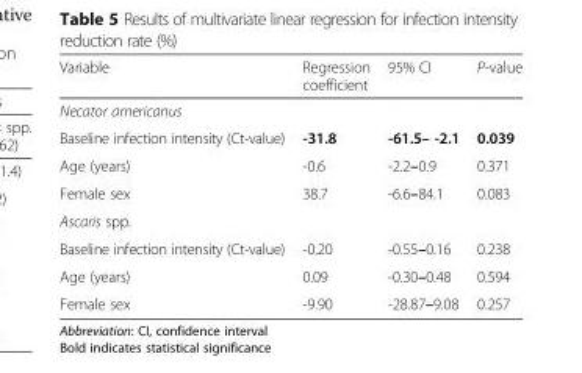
<table><thead><tr><td>Variable</td><td>Regression coefficient</td><td>95% CI</td><td>P-value</td></tr></thead><tbody><tr><td colspan="4">Necator americanus</td></tr><tr><td>Baseline infection intensity (Ct-value)</td><td>-31.8</td><td>-61.5– -2.1</td><td>0.039</td></tr><tr><td>Age (years)</td><td>-0.6</td><td>-2.2–0.9</td><td>0.371</td></tr><tr><td>Female sex</td><td>38.7</td><td>-6.6–84.1</td><td>0.083</td></tr><tr><td colspan="4">Ascaris spp.</td></tr><tr><td>Baseline infection intensity (Ct-value)</td><td>-0.20</td><td>-0.55–0.16</td><td>0.238</td></tr><tr><td>Age (years)</td><td>0.09</td><td>-0.30–0.48</td><td>0.594</td></tr><tr><td>Female sex</td><td>-9.90</td><td>-28.87–9.08</td><td>0.257</td></tr></tbody></table>